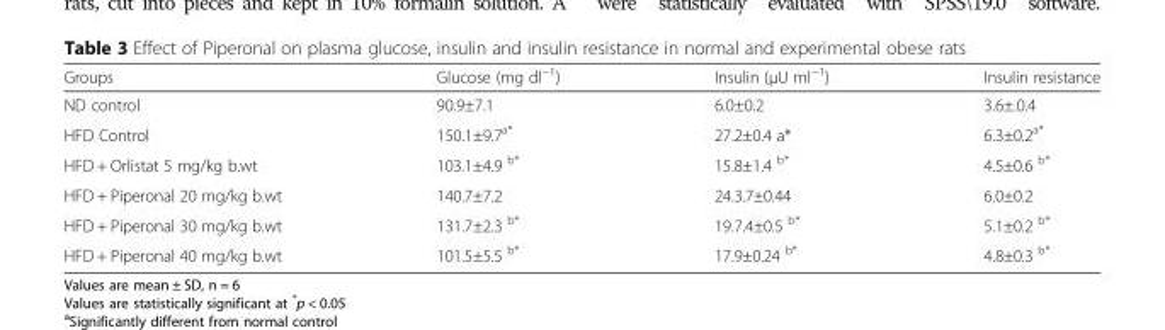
<table><thead><tr><td>Groups</td><td>Glucose (mg dl<sup>−1</sup>)</td><td>Insulin (μU ml<sup>−1</sup>)</td><td>Insulin resistance</td></tr></thead><tbody><tr><td>ND control</td><td>90.9±7.1</td><td>6.0±0.2</td><td>3.6±.0.4</td></tr><tr><td>HFD Control</td><td>150.1±9.7<sup>a*</sup></td><td>27.2±0.4 a*</td><td>6.3±0.2<sup>a*</sup></td></tr><tr><td>HFD + Orlistat 5 mg/kg b.wt</td><td>103.1±4.9 <sup>b*</sup></td><td>15.8±1.4 <sup>b*</sup></td><td>4.5±0.6 <sup>b*</sup></td></tr><tr><td>HFD + Piperonal 20 mg/kg b.wt</td><td>140.7±7.2</td><td>24.3.7±0.44</td><td>6.0±0.2</td></tr><tr><td>HFD + Piperonal 30 mg/kg b.wt</td><td>131.7±2.3 <sup>b*</sup></td><td>19.7.4±0.5 <sup>b*</sup></td><td>5.1±0.2 <sup>b*</sup></td></tr><tr><td>HFD + Piperonal 40 mg/kg b.wt</td><td>101.5±5.5 <sup>b*</sup></td><td>17.9±0.24 <sup>b*</sup></td><td>4.8±0.3 <sup>b*</sup></td></tr></tbody></table>